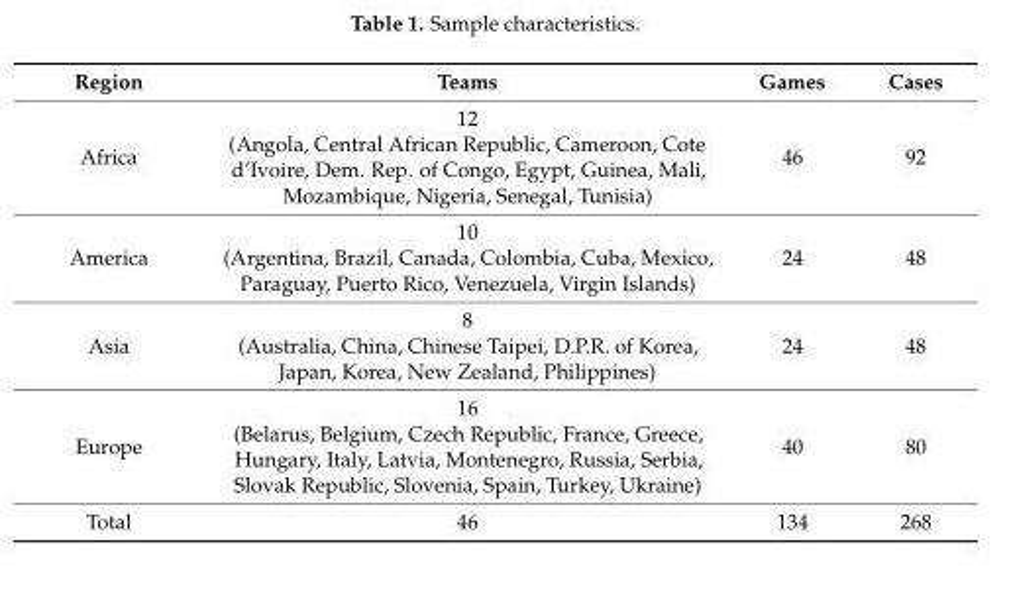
<table><thead><tr><td>Region</td><td>Teams</td><td>Games</td><td>Cases</td></tr></thead><tbody><tr><td>Africa</td><td>12 (Angola, Central African Republic, Cameroon, Cote d’Ivoire, Dem. Rep. of Congo, Egypt, Guinea, Mali, Mozambique, Nigeria, Senegal, Tunisia)</td><td>46</td><td>92</td></tr><tr><td>America</td><td>10 (Argentina, Brazil, Canada, Colombia, Cuba, Mexico, Paraguay, Puerto Rico, Venezuela, Virgin Islands)</td><td>24</td><td>48</td></tr><tr><td>Asia</td><td>8 (Australia, China, Chinese Taipei, D.P.R. of Korea, Japan, Korea, New Zealand, Philippines)</td><td>24</td><td>48</td></tr><tr><td>Europe</td><td>16 (Belarus, Belgium, Czech Republic, France, Greece, Hungary, Italy, Latvia, Montenegro, Russia, Serbia, Slovak Republic, Slovenia, Spain, Turkey, Ukraine)</td><td>40</td><td>80</td></tr><tr><td>Total</td><td>46</td><td>134</td><td>268</td></tr></tbody></table>